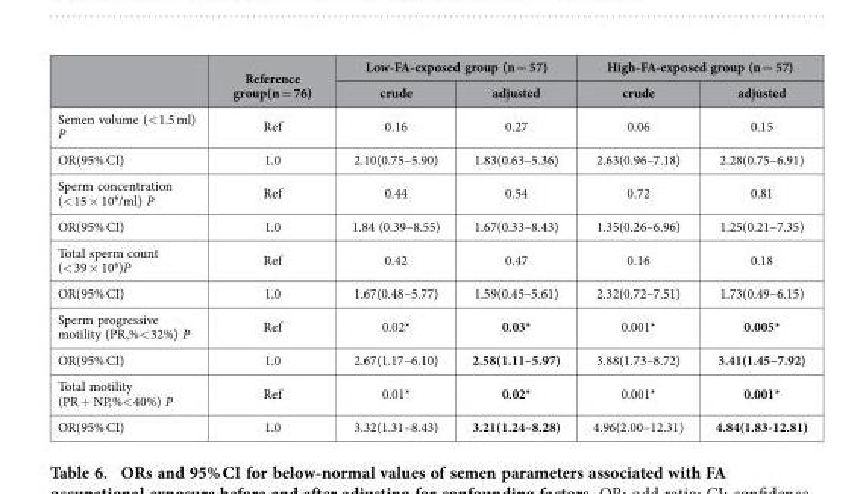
<table><thead><tr><td rowspan="2"></td><td rowspan="2">Reference group(n = 76)</td><td colspan="2">Low-FA-exposed group (n = 57)</td><td colspan="2">High-FA-exposed group (n = 57)</td></tr><tr><td>crude</td><td>adjusted</td><td>crude</td><td>adjusted</td></tr></thead><tbody><tr><td>Semen volume (&lt; 1.5 ml) P</td><td>Ref</td><td>0.16</td><td>0.27</td><td>0.06</td><td>0.15</td></tr><tr><td>OR(95% CI)</td><td>1.0</td><td>2.10(0.75–5.90)</td><td>1.83(0.63–5.36)</td><td>2.63(0.96–7.18)</td><td>2.28(0.75–6.91)</td></tr><tr><td>Sperm concentration (&lt; 15 × 10<sup>6</sup>/ml) P</td><td>Ref</td><td>0.44</td><td>0.54</td><td>0.72</td><td>0.81</td></tr><tr><td>OR(95% CI)</td><td>1.0</td><td>1.84 (0.39–8.55)</td><td>1.67(0.33–8.43)</td><td>1.35(0.26–6.96)</td><td>1.25(0.21–7.35)</td></tr><tr><td>Total sperm count (&lt; 39 × 10<sup>6</sup>)P</td><td>Ref</td><td>0.42</td><td>0.47</td><td>0.16</td><td>0.18</td></tr><tr><td>OR(95% CI)</td><td>1.0</td><td>1.67(0.48–5.77)</td><td>1.59(0.45–5.61)</td><td>2.32(0.72–7.51)</td><td>1.73(0.49–6.15)</td></tr><tr><td>Sperm progressive motility (PR,%&lt; 32%) P</td><td>Ref</td><td>0.02*</td><td>0.03*</td><td>0.001*</td><td>0.005*</td></tr><tr><td>OR(95% CI)</td><td>1.0</td><td>2.67(1.17–6.10)</td><td>2.58(1.11–5.97)</td><td>3.88(1.73–8.72)</td><td>3.41(1.45–7.92)</td></tr><tr><td>Total motility (PR + NP,%&lt; 40%) P</td><td>Ref</td><td>0.01*</td><td>0.02*</td><td>0.001*</td><td>0.001*</td></tr><tr><td>OR(95% CI)</td><td>1.0</td><td>3.32(1.31–8.43)</td><td>3.21(1.24–8.28)</td><td>4.96(2.00–12.31)</td><td>4.84(1.83-12.81)</td></tr></tbody></table>